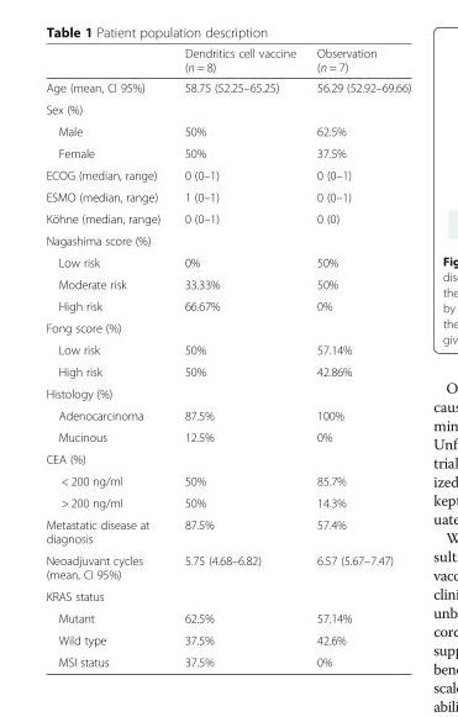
<table><thead><tr><td></td><td>Dendritics cell vaccine (n = 8)</td><td>Observation (n = 7)</td></tr></thead><tbody><tr><td>Age (mean, CI 95%)</td><td>58.75 (52.25–65.25)</td><td>56.29 (52.92–69.66)</td></tr><tr><td colspan="3">Sex (%)</td></tr><tr><td>Male</td><td>50%</td><td>62.5%</td></tr><tr><td>Female</td><td>50%</td><td>37.5%</td></tr><tr><td>ECOG (median, range)</td><td>0 (0–1)</td><td>0 (0–1)</td></tr><tr><td>ESMO (median, range)</td><td>1 (0–1)</td><td>0 (0–1)</td></tr><tr><td>Köhne (median, range)</td><td>0 (0–1)</td><td>0 (0)</td></tr><tr><td colspan="3">Nagashima score (%)</td></tr><tr><td>Low risk</td><td>0%</td><td>50%</td></tr><tr><td>Moderate risk</td><td>33.33%</td><td>50%</td></tr><tr><td>High risk</td><td>66.67%</td><td>0%</td></tr><tr><td colspan="3">Fong score (%)</td></tr><tr><td>Low risk</td><td>50%</td><td>57.14%</td></tr><tr><td>High risk</td><td>50%</td><td>42.86%</td></tr><tr><td colspan="3">Histology (%)</td></tr><tr><td>Adenocarcinoma</td><td>87.5%</td><td>100%</td></tr><tr><td>Mucinous</td><td>12.5%</td><td>0%</td></tr><tr><td colspan="3">CEA (%)</td></tr><tr><td>&lt; 200 ng/ml</td><td>50%</td><td>85.7%</td></tr><tr><td>&gt; 200 ng/ml</td><td>50%</td><td>14.3%</td></tr><tr><td>Metastatic disease at diagnosis</td><td>87.5%</td><td>57.4%</td></tr><tr><td>Neoadjuvant cycles (mean, CI 95%)</td><td>5.75 (4.68–6.82)</td><td>6.57 (5.67–7.47)</td></tr><tr><td colspan="3">KRAS status</td></tr><tr><td>Mutant</td><td>62.5%</td><td>57.14%</td></tr><tr><td>Wild type</td><td>37.5%</td><td>42.6%</td></tr><tr><td>MSI status</td><td>37.5%</td><td>0%</td></tr></tbody></table>